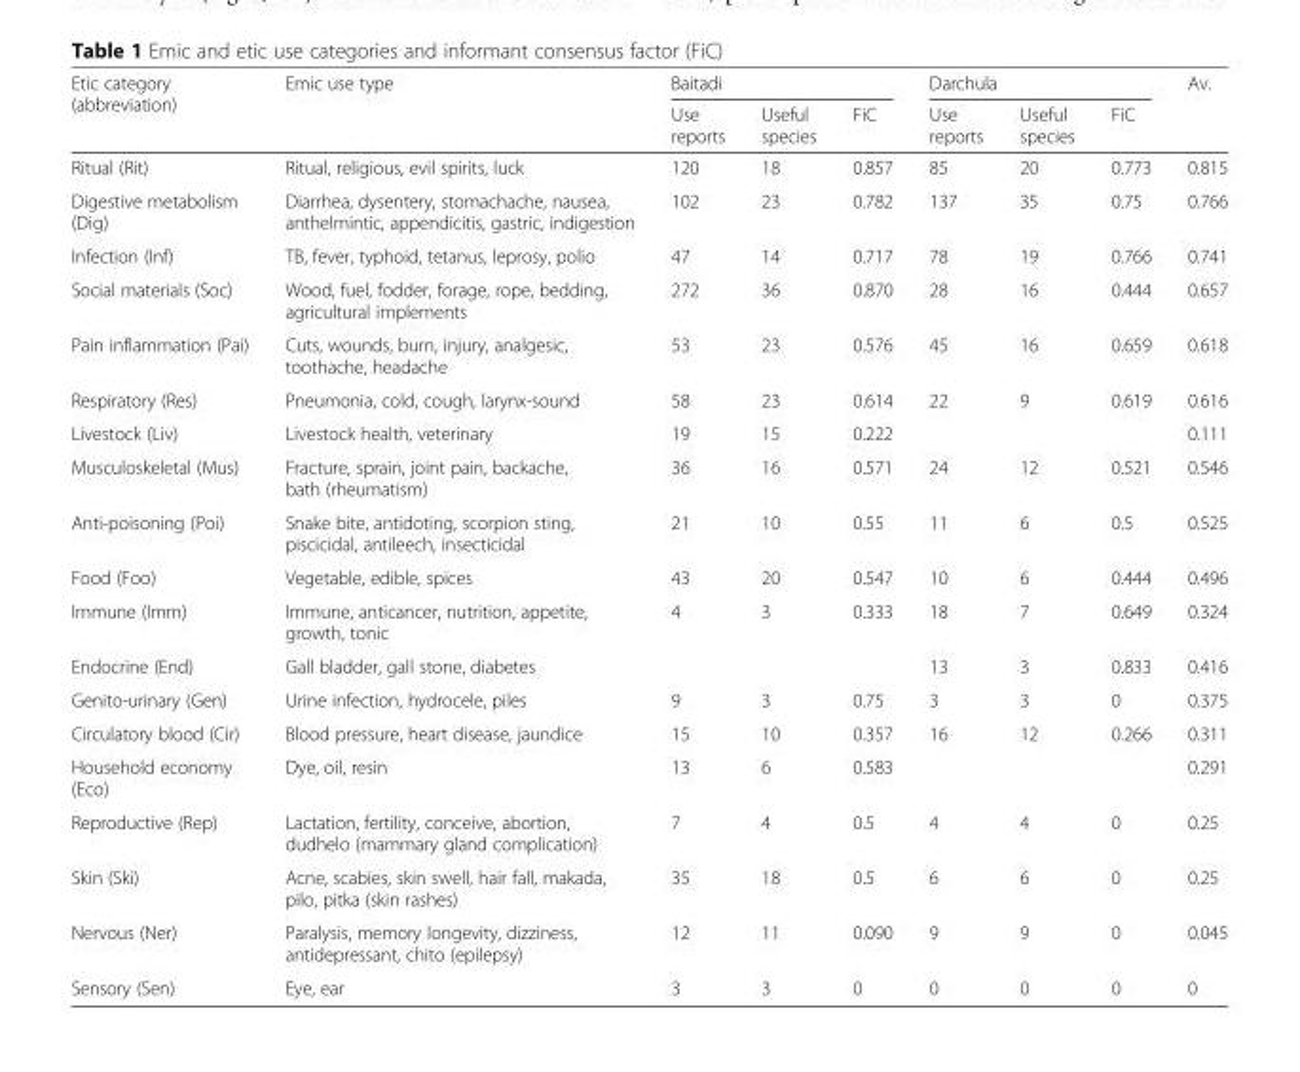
<table><thead><tr><td rowspan="2">Etic category (abbreviation)</td><td rowspan="2">Emic use type</td><td colspan="3">Baitadi</td><td colspan="3">Darchula</td><td rowspan="2">Av.</td></tr><tr><td>Use reports</td><td>Useful species</td><td>FiC</td><td>Use reports</td><td>Useful species</td><td>FiC</td></tr></thead><tbody><tr><td>Ritual (Rit)</td><td>Ritual, religious, evil spirits, luck</td><td>120</td><td>18</td><td>0.857</td><td>85</td><td>20</td><td>0.773</td><td>0.815</td></tr><tr><td>Digestive metabolism (Dig)</td><td>Diarrhea, dysentery, stomachache, nausea, anthelmintic, appendicitis, gastric, indigestion</td><td>102</td><td>23</td><td>0.782</td><td>137</td><td>35</td><td>0.75</td><td>0.766</td></tr><tr><td>Infection (Inf)</td><td>TB, fever, typhoid, tetanus, leprosy, polio</td><td>47</td><td>14</td><td>0.717</td><td>78</td><td>19</td><td>0.766</td><td>0.741</td></tr><tr><td>Social materials (Soc)</td><td>Wood, fuel, fodder, forage, rope, bedding, agricultural implements</td><td>272</td><td>36</td><td>0.870</td><td>28</td><td>16</td><td>0.444</td><td>0.657</td></tr><tr><td>Pain inflammation (Pai)</td><td>Cuts, wounds, burn, injury, analgesic, toothache, headache</td><td>53</td><td>23</td><td>0.576</td><td>45</td><td>16</td><td>0.659</td><td>0.618</td></tr><tr><td>Respiratory (Res)</td><td>Pneumonia, cold, cough, larynx-sound</td><td>58</td><td>23</td><td>0.614</td><td>22</td><td>9</td><td>0.619</td><td>0.616</td></tr><tr><td>Livestock (Liv)</td><td>Livestock health, veterinary</td><td>19</td><td>15</td><td>0.222</td><td></td><td></td><td></td><td>0.111</td></tr><tr><td>Musculoskeletal (Mus)</td><td>Fracture, sprain, joint pain, backache, bath (rheumatism)</td><td>36</td><td>16</td><td>0.571</td><td>24</td><td>12</td><td>0.521</td><td>0.546</td></tr><tr><td>Anti-poisoning (Poi)</td><td>Snake bite, antidoting, scorpion sting, piscicidal, antileech, insecticidal</td><td>21</td><td>10</td><td>0.55</td><td>11</td><td>6</td><td>0.5</td><td>0.525</td></tr><tr><td>Food (Foo)</td><td>Vegetable, edible, spices</td><td>43</td><td>20</td><td>0.547</td><td>10</td><td>6</td><td>0.444</td><td>0.496</td></tr><tr><td>Immune (Imm)</td><td>Immune, anticancer, nutrition, appetite, growth, tonic</td><td>4</td><td>3</td><td>0.333</td><td>18</td><td>7</td><td>0.649</td><td>0.324</td></tr><tr><td>Endocrine (End)</td><td>Gall bladder, gall stone, diabetes</td><td></td><td></td><td></td><td>13</td><td>3</td><td>0.833</td><td>0.416</td></tr><tr><td>Genito-urinary (Gen)</td><td>Urine infection, hydrocele, piles</td><td>9</td><td>3</td><td>0.75</td><td>3</td><td>3</td><td>0</td><td>0.375</td></tr><tr><td>Circulatory blood (Cir)</td><td>Blood pressure, heart disease, jaundice</td><td>15</td><td>10</td><td>0.357</td><td>16</td><td>12</td><td>0.266</td><td>0.311</td></tr><tr><td>Household economy (Eco)</td><td>Dye, oil, resin</td><td>13</td><td>6</td><td>0.583</td><td></td><td></td><td></td><td>0.291</td></tr><tr><td>Reproductive (Rep)</td><td>Lactation, fertility, conceive, abortion, dudhelo (mammary gland complication)</td><td>7</td><td>4</td><td>0.5</td><td>4</td><td>4</td><td>0</td><td>0.25</td></tr><tr><td>Skin (Ski)</td><td>Acne, scabies, skin swell, hair fall, makada, pilo, pitka (skin rashes)</td><td>35</td><td>18</td><td>0.5</td><td>6</td><td>6</td><td>0</td><td>0.25</td></tr><tr><td>Nervous (Ner)</td><td>Paralysis, memory longevity, dizziness, antidepressant, chito (epilepsy)</td><td>12</td><td>11</td><td>0.090</td><td>9</td><td>9</td><td>0</td><td>0.045</td></tr><tr><td>Sensory (Sen)</td><td>Eye, ear</td><td>3</td><td>3</td><td>0</td><td>0</td><td>0</td><td>0</td><td>0</td></tr></tbody></table>